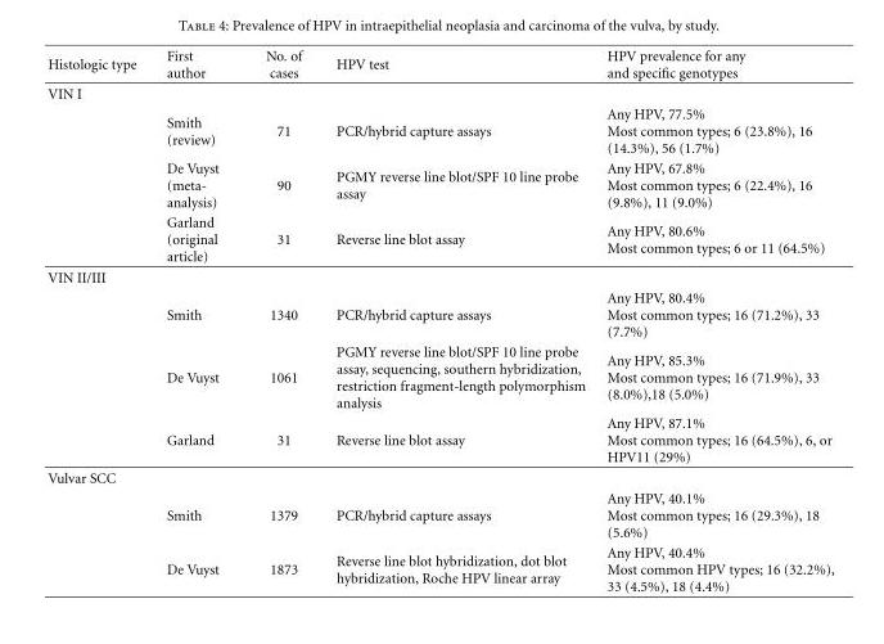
<table><thead><tr><td>Histologic type</td><td>First author</td><td>No. of cases</td><td>HPV test</td><td>HPV prevalence for any and specific genotypes</td></tr></thead><tbody><tr><td colspan="5">VIN I</td></tr><tr><td rowspan="3"></td><td>Smith (review)</td><td>71</td><td>PCR/hybrid capture assays</td><td>Any HPV, 77.5% Most common types; 6 (23.8%), 16 (14.3%), 56 (1.7%)</td></tr><tr><td>De Vuyst (meta- analysis)</td><td>90</td><td>PGMY reverse line blot/SPF 10 line probe assay</td><td>Any HPV, 67.8% Most common types; 6 (22.4%), 16 (9.8%), 11 (9.0%)</td></tr><tr><td>Garland (original article)</td><td>31</td><td>Reverse line blot assay</td><td>Any HPV, 80.6% Most common types; 6 or 11 (64.5%)</td></tr><tr><td colspan="5">VIN II/III</td></tr><tr><td rowspan="3"></td><td>Smith</td><td>1340</td><td>PCR/hybrid capture assays</td><td>Any HPV, 80.4% Most common types; 16 (71.2%), 33 (7.7%)</td></tr><tr><td>De Vuyst</td><td>1061</td><td>PGMY reverse line blot/SPF 10 line probe assay, sequencing, southern hybridization, restriction fragment-length polymorphism analysis</td><td>Any HPV, 85.3% Most common types; 16 (71.9%), 33 (8.0%),18 (5.0%)</td></tr><tr><td>Garland</td><td>31</td><td>Reverse line blot assay</td><td>Any HPV, 87.1% Most common types; 16 (64.5%), 6, or HPV11 (29%)</td></tr><tr><td colspan="5">Vulvar SCC</td></tr><tr><td rowspan="2"></td><td>Smith</td><td>1379</td><td>PCR/hybrid capture assays</td><td>Any HPV, 40.1% Most common types; 16 (29.3%), 18 (5.6%)</td></tr><tr><td>De Vuyst</td><td>1873</td><td>Reverse line blot hybridization, dot blot hybridization, Roche HPV linear array</td><td>Any HPV, 40.4% Most common HPV types; 16 (32.2%), 33 (4.5%), 18 (4.4%)</td></tr></tbody></table>